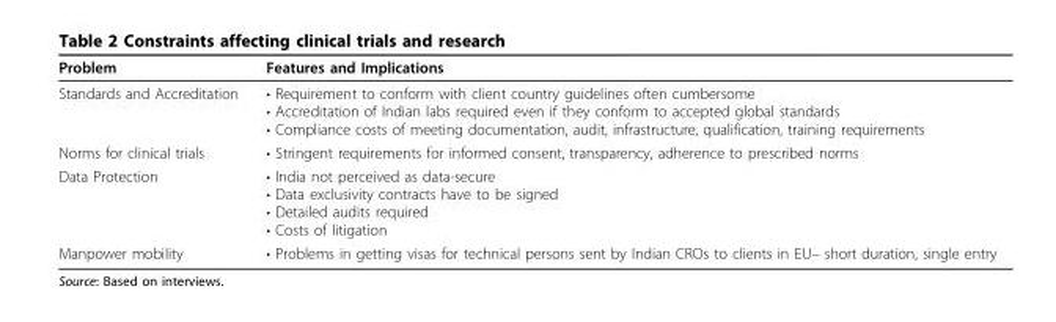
<table><thead><tr><td>Problem</td><td>Features and Implications</td></tr></thead><tbody><tr><td>Standards and Accreditation</td><td>• Requirement to conform with client country guidelines often cumbersome • Accreditation of Indian labs required even if they conform to accepted global standards • Compliance costs of meeting documentation, audit, infrastructure, qualification, training requirements</td></tr><tr><td>Norms for clinical trials</td><td>• Stringent requirements for informed consent, transparency, adherence to prescribed norms</td></tr><tr><td>Data Protection</td><td>• India not perceived as data-secure • Data exclusivity contracts have to be signed • Detailed audits required • Costs of litigation</td></tr><tr><td>Manpower mobility</td><td>• Problems in getting visas for technical persons sent by Indian CROs to clients in EU– short duration, single entry</td></tr></tbody></table>